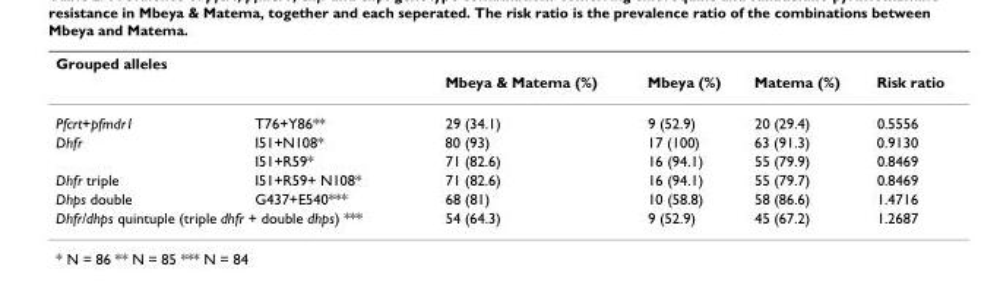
<table><thead><tr><td rowspan="2">Grouped alleles</td><td rowspan="2"></td><td rowspan="2">Mbeya &amp; Matema (%)</td><td rowspan="2">Mbeya (%)</td><td rowspan="2">Matema (%)</td><td rowspan="2">Risk ratio</td></tr><tr></tr></thead><tbody><tr><td>Pfcrt+pfmdr1</td><td>T76+Y86**</td><td>29 (34.1)</td><td>9 (52.9)</td><td>20 (29.4)</td><td>0.5556</td></tr><tr><td rowspan="2">Dhfr</td><td>I51+N108*</td><td>80 (93)</td><td>17 (100)</td><td>63 (91.3)</td><td>0.9130</td></tr><tr><td>I51+R59*</td><td>71 (82.6)</td><td>16 (94.1)</td><td>55 (79.9)</td><td>0.8469</td></tr><tr><td>Dhfr triple</td><td>I51+R59+ N108*</td><td>71 (82.6)</td><td>16 (94.1)</td><td>55 (79.7)</td><td>0.8469</td></tr><tr><td>Dhps double</td><td>G437+E540***</td><td>68 (81)</td><td>10 (58.8)</td><td>58 (86.6)</td><td>1.4716</td></tr><tr><td colspan="2">Dhfr/dhps quintuple (triple dhfr + double dhps) ***</td><td>54 (64.3)</td><td>9 (52.9)</td><td>45 (67.2)</td><td>1.2687</td></tr></tbody></table>